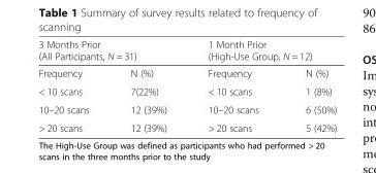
<table><thead><tr><td colspan="2">3 Months Prior (All Participants, N = 31)</td><td colspan="2">1 Month Prior (High-Use Group, N = 12)</td></tr><tr><td>Frequency</td><td>N (%)</td><td>Frequency</td><td>N (%)</td></tr></thead><tbody><tr><td>&lt; 10 scans</td><td>7(22%)</td><td>&lt; 10 scans</td><td>1 (8%)</td></tr><tr><td>10–20 scans</td><td>12 (39%)</td><td>10–20 scans</td><td>6 (50%)</td></tr><tr><td>&gt; 20 scans</td><td>12 (39%)</td><td>&gt; 20 scans</td><td>5 (42%)</td></tr></tbody></table>